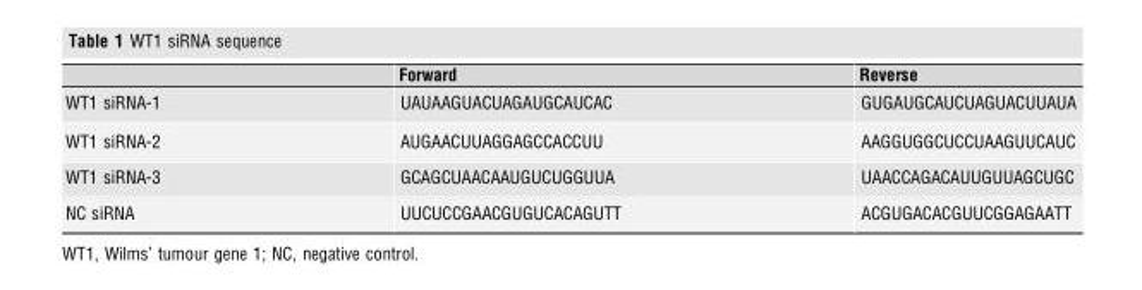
<table><thead><tr><td></td><td>Forward</td><td>Reverse</td></tr></thead><tbody><tr><td>WT1 siRNA-1</td><td>UAUAAGUACUAGAUGCAUCAC</td><td>GUGAUGCAUCUAGUACUUAUA</td></tr><tr><td>WT1 siRNA-2</td><td>AUGAACUUAGGAGCCACCUU</td><td>AAGGUGGCUCCUAAGUUCAUC</td></tr><tr><td>WT1 siRNA-3</td><td>GCAGCUAACAAUGUCUGGUUA</td><td>UAACCAGACAUUGUUAGCUGC</td></tr><tr><td>NC siRNA</td><td>UUCUCCGAACGUGUCACAGUTT</td><td>ACGUGACACGUUCGGAGAATT</td></tr></tbody></table>